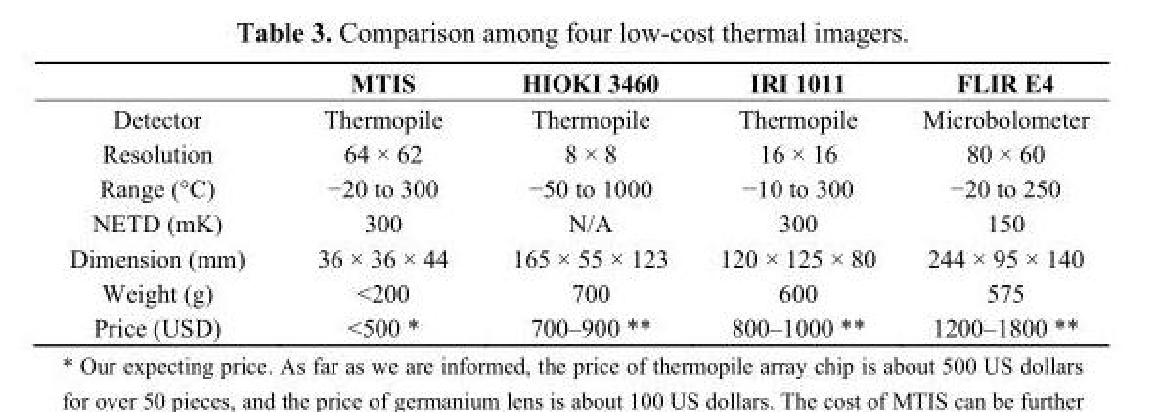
<table><thead><tr><td></td><td>MTIS</td><td>HIOKI 3460</td><td>IRI 1011</td><td>FLIR E4</td></tr></thead><tbody><tr><td>Detector</td><td>Thermopile</td><td>Thermopile</td><td>Thermopile</td><td>Microbolometer</td></tr><tr><td>Resolution</td><td>64 × 62</td><td>8 × 8</td><td>16 × 16</td><td>80 × 60</td></tr><tr><td>Range (°C)</td><td>−20 to 300</td><td>−50 to 1000</td><td>−10 to 300</td><td>−20 to 250</td></tr><tr><td>NETD (mK)</td><td>300</td><td>N/A</td><td>300</td><td>150</td></tr><tr><td>Dimension (mm)</td><td>36 × 36 × 44</td><td>165 × 55 × 123</td><td>120 × 125 × 80</td><td>244 × 95 × 140</td></tr><tr><td>Weight (g)</td><td>&lt;200</td><td>700</td><td>600</td><td>575</td></tr><tr><td>Price (USD)</td><td>&lt;500 *</td><td>700–900 **</td><td>800–1000 **</td><td>1200–1800 **</td></tr></tbody></table>